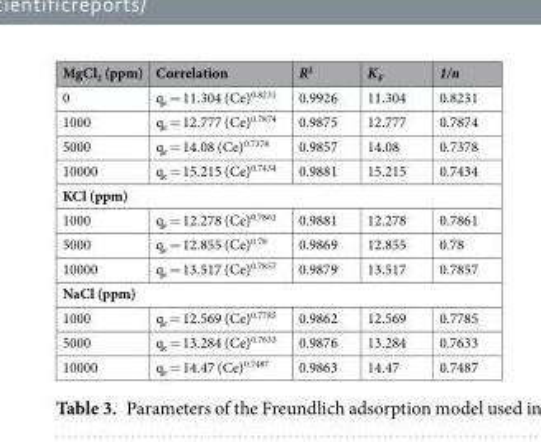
<table><thead><tr><td>MgCl<sub>2</sub> (ppm)</td><td>Correlation</td><td>R<sup>2</sup></td><td>K<sub>F</sub></td><td>1/n</td></tr></thead><tbody><tr><td>0</td><td>q<sub>e</sub> = 11.304 (Ce)<sup>0.8231</sup></td><td>0.9926</td><td>11.304</td><td>0.8231</td></tr><tr><td>1000</td><td>q<sub>e</sub> = 12.777 (Ce)<sup>0.7874</sup></td><td>0.9875</td><td>12.777</td><td>0.7874</td></tr><tr><td>5000</td><td>q<sub>e</sub> = 14.08 (Ce)<sup>0.7378</sup></td><td>0.9857</td><td>14.08</td><td>0.7378</td></tr><tr><td>10000</td><td>q<sub>e</sub> = 15.215 (Ce)<sup>0.7434</sup></td><td>0.9881</td><td>15.215</td><td>0.7434</td></tr><tr><td colspan="5">KCl (ppm)</td></tr><tr><td>1000</td><td>q<sub>e</sub> = 12.278 (Ce)<sup>0.7861</sup></td><td>0.9881</td><td>12.278</td><td>0.7861</td></tr><tr><td>5000</td><td>q<sub>e</sub> = 12.855 (Ce)<sup>0.78</sup></td><td>0.9869</td><td>12.855</td><td>0.78</td></tr><tr><td>10000</td><td>q<sub>e</sub> = 13.517 (Ce)<sup>0.7857</sup></td><td>0.9879</td><td>13.517</td><td>0.7857</td></tr><tr><td colspan="5">NaCl (ppm)</td></tr><tr><td>1000</td><td>q<sub>e</sub> = 12.569 (Ce)<sup>0.7785</sup></td><td>0.9862</td><td>12.569</td><td>0.7785</td></tr><tr><td>5000</td><td>q<sub>e</sub> = 13.284 (Ce)<sup>0.7633</sup></td><td>0.9876</td><td>13.284</td><td>0.7633</td></tr><tr><td>10000</td><td>q<sub>e</sub> = 14.47 (Ce)<sup>0.7487</sup></td><td>0.9863</td><td>14.47</td><td>0.7487</td></tr></tbody></table>